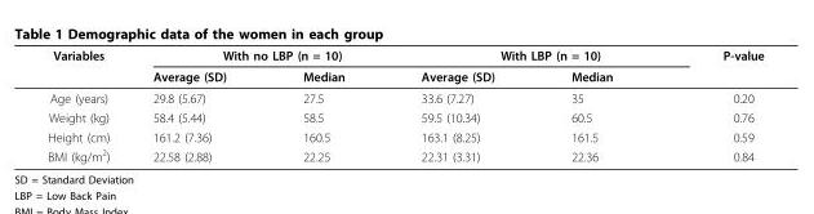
<table><thead><tr><td rowspan="2">Variables</td><td colspan="2">With no LBP (n = 10)</td><td colspan="2">With LBP (n = 10)</td><td rowspan="2">P-value</td></tr><tr><td>Average (SD)</td><td>Median</td><td>Average (SD)</td><td>Median</td></tr></thead><tbody><tr><td>Age (years)</td><td>29.8 (5.67)</td><td>27.5</td><td>33.6 (7.27)</td><td>35</td><td>0.20</td></tr><tr><td>Weight (kg)</td><td>58.4 (5.44)</td><td>58.5</td><td>59.5 (10.34)</td><td>60.5</td><td>0.76</td></tr><tr><td>Height (cm)</td><td>161.2 (7.36)</td><td>160.5</td><td>163.1 (8.25)</td><td>161.5</td><td>0.59</td></tr><tr><td>BMI (kg/m<sup>2</sup>)</td><td>22.58 (2.88)</td><td>22.25</td><td>22.31 (3.31)</td><td>22.36</td><td>0.84</td></tr></tbody></table>